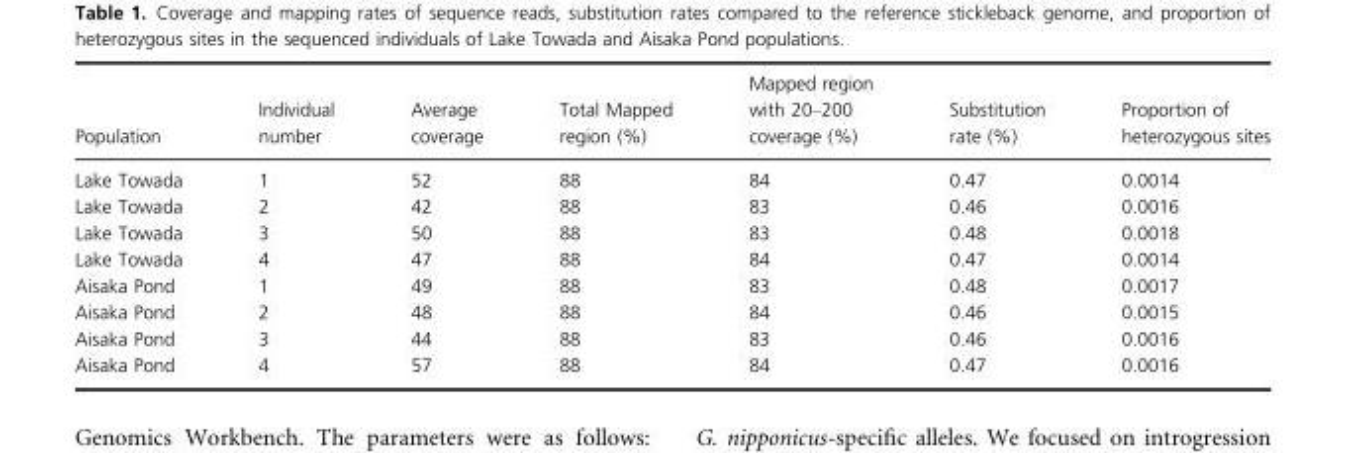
<table><thead><tr><td>Population</td><td>Individual number</td><td>Average coverage</td><td>Total Mapped region (%)</td><td>Mapped region with 20–200 coverage (%)</td><td>Substitution rate (%)</td><td>Proportion of heterozygous sites</td></tr></thead><tbody><tr><td>Lake Towada</td><td>1</td><td>52</td><td>88</td><td>84</td><td>0.47</td><td>0.0014</td></tr><tr><td>Lake Towada</td><td>2</td><td>42</td><td>88</td><td>83</td><td>0.46</td><td>0.0016</td></tr><tr><td>Lake Towada</td><td>3</td><td>50</td><td>88</td><td>83</td><td>0.48</td><td>0.0018</td></tr><tr><td>Lake Towada</td><td>4</td><td>47</td><td>88</td><td>84</td><td>0.47</td><td>0.0014</td></tr><tr><td>Aisaka Pond</td><td>1</td><td>49</td><td>88</td><td>83</td><td>0.48</td><td>0.0017</td></tr><tr><td>Aisaka Pond</td><td>2</td><td>48</td><td>88</td><td>84</td><td>0.46</td><td>0.0015</td></tr><tr><td>Aisaka Pond</td><td>3</td><td>44</td><td>88</td><td>83</td><td>0.46</td><td>0.0016</td></tr><tr><td>Aisaka Pond</td><td>4</td><td>57</td><td>88</td><td>84</td><td>0.47</td><td>0.0016</td></tr></tbody></table>